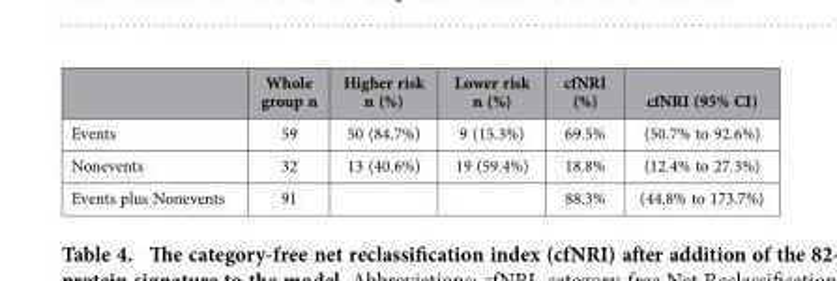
<table><thead><tr><td></td><td>Whole group n</td><td>Higher risk n (%)</td><td>Lower risk n (%)</td><td>cfNRI (%)</td><td>cfNRI (95% CI)</td></tr></thead><tbody><tr><td>Events</td><td>59</td><td>50 (84.7%)</td><td>9 (15.3%)</td><td>69.5%</td><td>(50.7% to 92.6%)</td></tr><tr><td>Nonevents</td><td>32</td><td>13 (40.6%)</td><td>19 (59.4%)</td><td>18.8%</td><td>(12.4% to 27.3%)</td></tr><tr><td>Events plus Nonevents</td><td>91</td><td></td><td></td><td>88.3%</td><td>(44.8% to 173.7%)</td></tr></tbody></table>